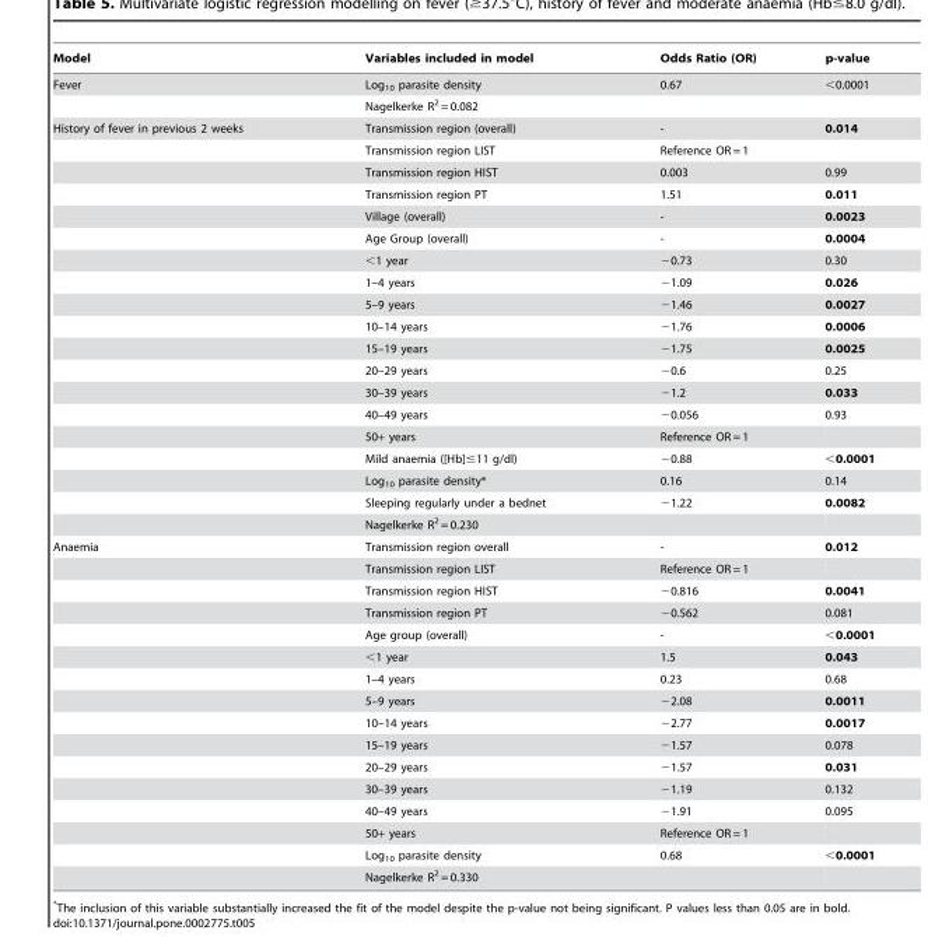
<table><thead><tr><td>Model</td><td>Variables included in model</td><td>Odds Ratio (OR)</td><td>p-value</td></tr></thead><tbody><tr><td rowspan="2">Fever</td><td>Log<sub>10</sub> parasite density</td><td>0.67</td><td>&lt;0.0001</td></tr><tr><td>Nagelkerke R<sup>2</sup> = 0.082</td><td></td><td></td></tr><tr><td rowspan="19">History of fever in previous 2 weeks</td><td>Transmission region (overall)</td><td>-</td><td>0.014</td></tr><tr><td>Transmission region LIST</td><td>Reference OR = 1</td><td></td></tr><tr><td>Transmission region HIST</td><td>0.003</td><td>0.99</td></tr><tr><td>Transmission region PT</td><td>1.51</td><td>0.011</td></tr><tr><td>Village (overall)</td><td>-</td><td>0.0023</td></tr><tr><td>Age Group (overall)</td><td>-</td><td>0.0004</td></tr><tr><td>&lt;1 year</td><td>−0.73</td><td>0.30</td></tr><tr><td>1–4 years</td><td>−1.09</td><td>0.026</td></tr><tr><td>5–9 years</td><td>−1.46</td><td>0.0027</td></tr><tr><td>10–14 years</td><td>−1.76</td><td>0.0006</td></tr><tr><td>15–19 years</td><td>−1.75</td><td>0.0025</td></tr><tr><td>20–29 years</td><td>−0.6</td><td>0.25</td></tr><tr><td>30–39 years</td><td>−1.2</td><td>0.033</td></tr><tr><td>40–49 years</td><td>−0.056</td><td>0.93</td></tr><tr><td>50+ years</td><td>Reference OR = 1</td><td></td></tr><tr><td>Mild anaemia ([Hb]≤11 g/dl)</td><td>−0.88</td><td>&lt;0.0001</td></tr><tr><td>Log<sub>10</sub> parasite density*</td><td>0.16</td><td>0.14</td></tr><tr><td>Sleeping regularly under a bednet</td><td>−1.22</td><td>0.0082</td></tr><tr><td>Nagelkerke R<sup>2</sup> = 0.230</td><td></td><td></td></tr><tr><td rowspan="16">Anaemia</td><td>Transmission region overall</td><td>-</td><td>0.012</td></tr><tr><td>Transmission region LIST</td><td>Reference OR = 1</td><td></td></tr><tr><td>Transmission region HIST</td><td>−0.816</td><td>0.0041</td></tr><tr><td>Transmission region PT</td><td>−0.562</td><td>0.081</td></tr><tr><td>Age group (overall)</td><td>-</td><td>&lt;0.0001</td></tr><tr><td>&lt;1 year</td><td>1.5</td><td>0.043</td></tr><tr><td>1–4 years</td><td>0.23</td><td>0.68</td></tr><tr><td>5–9 years</td><td>−2.08</td><td>0.0011</td></tr><tr><td>10–14 years</td><td>−2.77</td><td>0.0017</td></tr><tr><td>15–19 years</td><td>−1.57</td><td>0.078</td></tr><tr><td>20–29 years</td><td>−1.57</td><td>0.031</td></tr><tr><td>30–39 years</td><td>−1.19</td><td>0.132</td></tr><tr><td>40–49 years</td><td>−1.91</td><td>0.095</td></tr><tr><td>50+ years</td><td>Reference OR = 1</td><td></td></tr><tr><td>Log<sub>10</sub> parasite density</td><td>0.68</td><td>&lt;0.0001</td></tr><tr><td>Nagelkerke R<sup>2</sup> = 0.330</td><td></td><td></td></tr></tbody></table>